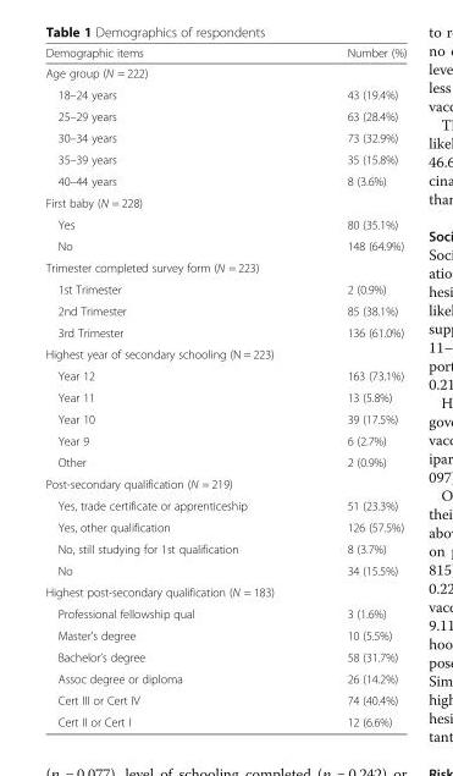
<table><thead><tr><td>Demographic items</td><td>Number (%)</td></tr></thead><tbody><tr><td colspan="2">Age group (N = 222)</td></tr><tr><td>18–24 years</td><td>43 (19.4%)</td></tr><tr><td>25–29 years</td><td>63 (28.4%)</td></tr><tr><td>30–34 years</td><td>73 (32.9%)</td></tr><tr><td>35–39 years</td><td>35 (15.8%)</td></tr><tr><td>40–44 years</td><td>8 (3.6%)</td></tr><tr><td colspan="2">First baby (N = 228)</td></tr><tr><td>Yes</td><td>80 (35.1%)</td></tr><tr><td>No</td><td>148 (64.9%)</td></tr><tr><td colspan="2">Trimester completed survey form (N = 223)</td></tr><tr><td>1st Trimester</td><td>2 (0.9%)</td></tr><tr><td>2nd Trimester</td><td>85 (38.1%)</td></tr><tr><td>3rd Trimester</td><td>136 (61.0%)</td></tr><tr><td colspan="2">Highest year of secondary schooling (N = 223)</td></tr><tr><td>Year 12</td><td>163 (73.1%)</td></tr><tr><td>Year 11</td><td>13 (5.8%)</td></tr><tr><td>Year 10</td><td>39 (17.5%)</td></tr><tr><td>Year 9</td><td>6 (2.7%)</td></tr><tr><td>Other</td><td>2 (0.9%)</td></tr><tr><td colspan="2">Post-secondary qualification (N = 219)</td></tr><tr><td>Yes, trade certificate or apprenticeship</td><td>51 (23.3%)</td></tr><tr><td>Yes, other qualification</td><td>126 (57.5%)</td></tr><tr><td>No, still studying for 1st qualification</td><td>8 (3.7%)</td></tr><tr><td>No</td><td>34 (15.5%)</td></tr><tr><td colspan="2">Highest post-secondary qualification (N = 183)</td></tr><tr><td>Professional fellowship qual</td><td>3 (1.6%)</td></tr><tr><td>Master’s degree</td><td>10 (5.5%)</td></tr><tr><td>Bachelor’s degree</td><td>58 (31.7%)</td></tr><tr><td>Assoc degree or diploma</td><td>26 (14.2%)</td></tr><tr><td>Cert III or Cert IV</td><td>74 (40.4%)</td></tr><tr><td>Cert II or Cert I</td><td>12 (6.6%)</td></tr></tbody></table>